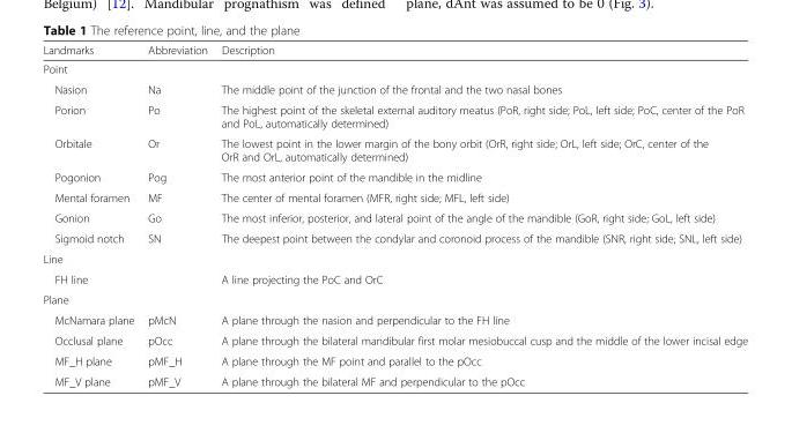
<table><thead><tr><td>Landmarks</td><td>Abbreviation</td><td>Description</td></tr></thead><tbody><tr><td colspan="3">Point</td></tr><tr><td>Nasion</td><td>Na</td><td>The middle point of the junction of the frontal and the two nasal bones</td></tr><tr><td>Porion</td><td>Po</td><td>The highest point of the skeletal external auditory meatus (PoR, right side; PoL, left side; PoC, center of the PoR and PoL, automatically determined)</td></tr><tr><td>Orbitale</td><td>Or</td><td>The lowest point in the lower margin of the bony orbit (OrR, right side; OrL, left side; OrC, center of the OrR and OrL, automatically determined)</td></tr><tr><td>Pogonion</td><td>Pog</td><td>The most anterior point of the mandible in the midline</td></tr><tr><td>Mental foramen</td><td>MF</td><td>The center of mental foramen (MFR, right side; MFL, left side)</td></tr><tr><td>Gonion</td><td>Go</td><td>The most inferior, posterior, and lateral point of the angle of the mandible (GoR, right side; GoL, left side)</td></tr><tr><td>Sigmoid notch</td><td>SN</td><td>The deepest point between the condylar and coronoid process of the mandible (SNR, right side; SNL, left side)</td></tr><tr><td colspan="3">Line</td></tr><tr><td>FH line</td><td></td><td>A line projecting the PoC and OrC</td></tr><tr><td colspan="3">Plane</td></tr><tr><td>McNamara plane</td><td>pMcN</td><td>A plane through the nasion and perpendicular to the FH line</td></tr><tr><td>Occlusal plane</td><td>pOcc</td><td>A plane through the bilateral mandibular first molar mesiobuccal cusp and the middle of the lower incisal edge</td></tr><tr><td>MF_H plane</td><td>pMF_H</td><td>A plane through the MF point and parallel to the pOcc</td></tr><tr><td>MF_V plane</td><td>pMF_V</td><td>A plane through the bilateral MF and perpendicular to the pOcc</td></tr></tbody></table>